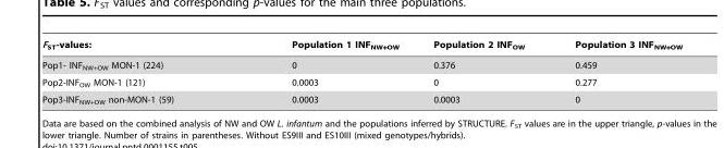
<table><thead><tr><td>F<sub>ST</sub>-values:</td><td>Population 1 INF<sub>NW+OW</sub></td><td>Population 2 INF<sub>OW</sub></td><td>Population 3 INF<sub>NW+OW</sub></td></tr></thead><tbody><tr><td>Pop1- INF<sub>NW+OW</sub> MON-1 (224)</td><td>0</td><td>0.376</td><td>0.459</td></tr><tr><td>Pop2-INF<sub>OW</sub> MON-1 (121)</td><td>0.0003</td><td>0</td><td>0.277</td></tr><tr><td>Pop3-INF<sub>NW+OW</sub> non-MON-1 (59)</td><td>0.0003</td><td>0.0003</td><td>0</td></tr></tbody></table>